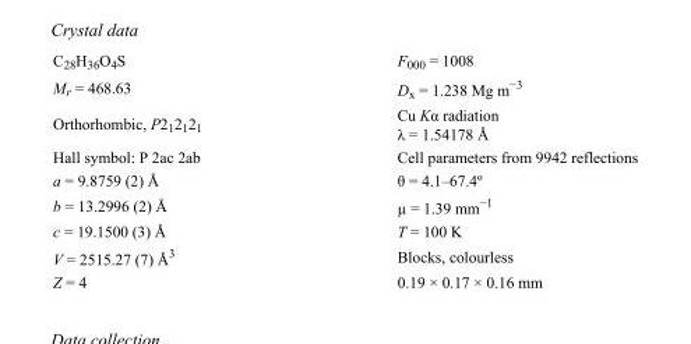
<table><tbody><tr><td>C<sub>28</sub>H<sub>36</sub>O<sub>4</sub>S</td><td>F<sub>000</sub> = 1008</td></tr><tr><td>M<sub>r</sub> = 468.63</td><td>D<sub>x</sub> = 1.238 Mg m<sup>−3</sup></td></tr><tr><td>Orthorhombic, P2<sub>1</sub>2<sub>1</sub>2<sub>1</sub></td><td>Cu Kα radiation λ = 1.54178 Å</td></tr><tr><td>Hall symbol: P 2ac 2ab</td><td>Cell parameters from 9942 reflections</td></tr><tr><td>a = 9.8759 (2) Å</td><td>θ = 4.1–67.4º</td></tr><tr><td>b = 13.2996 (2) Å</td><td>µ = 1.39 mm<sup>−1</sup></td></tr><tr><td>c = 19.1500 (3) Å</td><td>T = 100 K</td></tr><tr><td>V = 2515.27 (7) Å<sup>3</sup></td><td>Blocks, colourless</td></tr><tr><td>Z = 4</td><td>0.19 × 0.17 × 0.16 mm</td></tr></tbody></table>